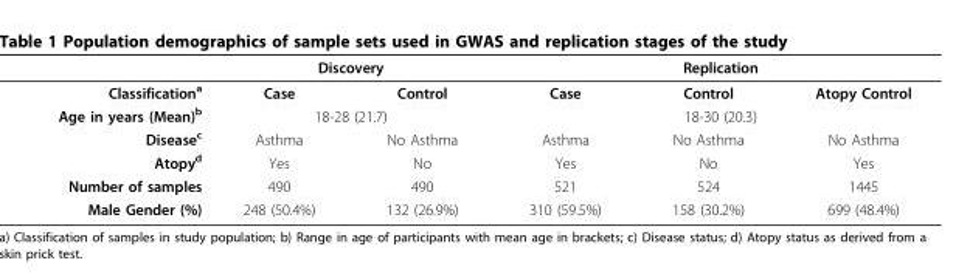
<table><thead><tr><td rowspan="2">Classification<sup>a</sup></td><td colspan="2">Discovery</td><td colspan="3">Replication</td></tr><tr><td>Case</td><td>Control</td><td>Case</td><td>Control</td><td>Atopy Control</td></tr></thead><tbody><tr><td>Age in years (Mean)<sup>b</sup></td><td colspan="2">18-28 (21.7)</td><td colspan="3">18-30 (20.3)</td></tr><tr><td>Disease<sup>c</sup></td><td>Asthma</td><td>No Asthma</td><td>Asthma</td><td>No Asthma</td><td>No Asthma</td></tr><tr><td>Atopy<sup>d</sup></td><td>Yes</td><td>No</td><td>Yes</td><td>No</td><td>Yes</td></tr><tr><td>Number of samples</td><td>490</td><td>490</td><td>521</td><td>524</td><td>1445</td></tr><tr><td>Male Gender (%)</td><td>248 (50.4%)</td><td>132 (26.9%)</td><td>310 (59.5%)</td><td>158 (30.2%)</td><td>699 (48.4%)</td></tr></tbody></table>